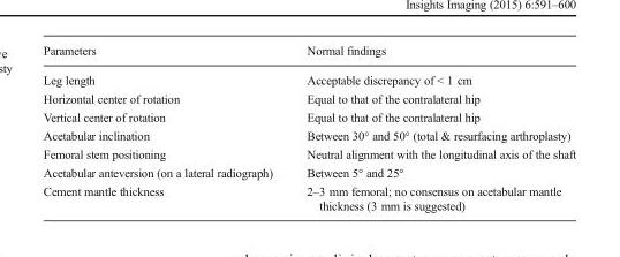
<table><thead><tr><td>Parameters</td><td>Normal findings</td></tr></thead><tbody><tr><td>Leg length</td><td>Acceptable discrepancy of &lt; 1 cm</td></tr><tr><td>Horizontal center of rotation</td><td>Equal to that of the contralateral hip</td></tr><tr><td>Vertical center of rotation</td><td>Equal to that of the contralateral hip</td></tr><tr><td>Acetabular inclination</td><td>Between 30° and 50° (total &amp; resurfacing arthroplasty)</td></tr><tr><td>Femoral stem positioning</td><td>Neutral alignment with the longitudinal axis of the shaft</td></tr><tr><td>Acetabular anteversion (on a lateral radiograph)</td><td>Between 5° and 25°</td></tr><tr><td>Cement mantle thickness</td><td>2–3 mm femoral; no consensus on acetabular mantle thickness (3 mm is suggested)</td></tr></tbody></table>